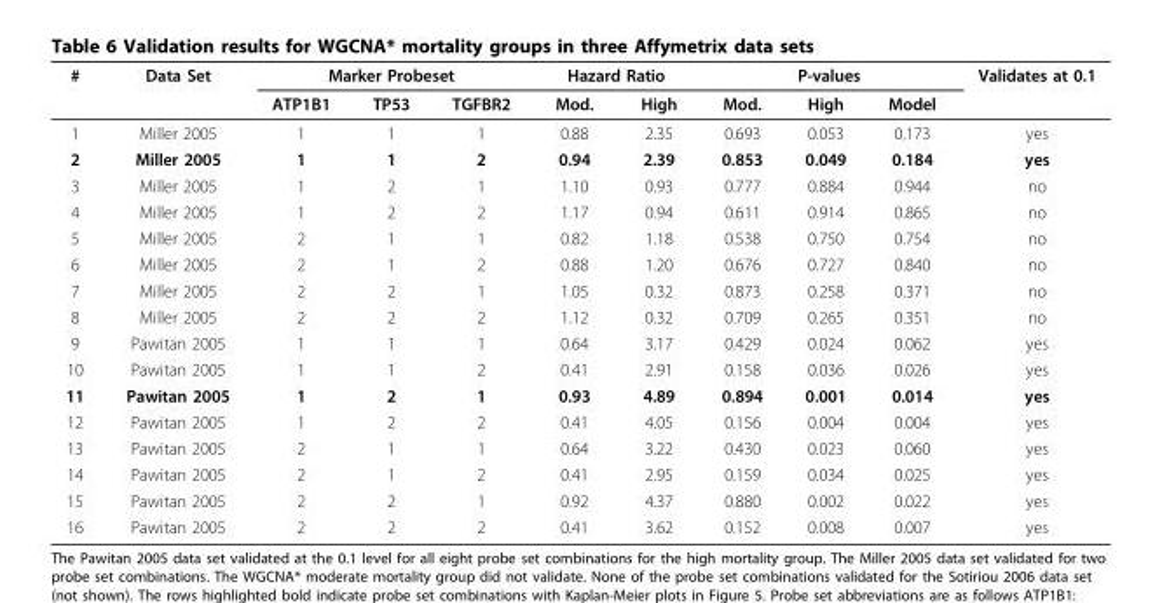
<table><thead><tr><td rowspan="2">#</td><td rowspan="2">Data Set</td><td colspan="3">Marker Probeset</td><td colspan="2">Hazard Ratio</td><td colspan="3">P-values</td><td rowspan="2">Validates at 0.1</td></tr><tr><td>ATP1B1</td><td>TP53</td><td>TGFBR2</td><td>Mod.</td><td>High</td><td>Mod.</td><td>High</td><td>Model</td></tr></thead><tbody><tr><td>1</td><td>Miller 2005</td><td>1</td><td>1</td><td>1</td><td>0.88</td><td>2.35</td><td>0.693</td><td>0.053</td><td>0.173</td><td>yes</td></tr><tr><td>2</td><td>Miller 2005</td><td>1</td><td>1</td><td>2</td><td>0.94</td><td>2.39</td><td>0.853</td><td>0.049</td><td>0.184</td><td>yes</td></tr><tr><td>3</td><td>Miller 2005</td><td>1</td><td>2</td><td>1</td><td>1.10</td><td>0.93</td><td>0.777</td><td>0.884</td><td>0.944</td><td>no</td></tr><tr><td>4</td><td>Miller 2005</td><td>1</td><td>2</td><td>2</td><td>1.17</td><td>0.94</td><td>0.611</td><td>0.914</td><td>0.865</td><td>no</td></tr><tr><td>5</td><td>Miller 2005</td><td>2</td><td>1</td><td>1</td><td>0.82</td><td>1.18</td><td>0.538</td><td>0.750</td><td>0.754</td><td>no</td></tr><tr><td>6</td><td>Miller 2005</td><td>2</td><td>1</td><td>2</td><td>0.88</td><td>1.20</td><td>0.676</td><td>0.727</td><td>0.840</td><td>no</td></tr><tr><td>7</td><td>Miller 2005</td><td>2</td><td>2</td><td>1</td><td>1.05</td><td>0.32</td><td>0.873</td><td>0.258</td><td>0.371</td><td>no</td></tr><tr><td>8</td><td>Miller 2005</td><td>2</td><td>2</td><td>2</td><td>1.12</td><td>0.32</td><td>0.709</td><td>0.265</td><td>0.351</td><td>no</td></tr><tr><td>9</td><td>Pawitan 2005</td><td>1</td><td>1</td><td>1</td><td>0.64</td><td>3.17</td><td>0.429</td><td>0.024</td><td>0.062</td><td>yes</td></tr><tr><td>10</td><td>Pawitan 2005</td><td>1</td><td>1</td><td>2</td><td>0.41</td><td>2.91</td><td>0.158</td><td>0.036</td><td>0.026</td><td>yes</td></tr><tr><td>11</td><td>Pawitan 2005</td><td>1</td><td>2</td><td>1</td><td>0.93</td><td>4.89</td><td>0.894</td><td>0.001</td><td>0.014</td><td>yes</td></tr><tr><td>12</td><td>Pawitan 2005</td><td>1</td><td>2</td><td>2</td><td>0.41</td><td>4.05</td><td>0.156</td><td>0.004</td><td>0.004</td><td>yes</td></tr><tr><td>13</td><td>Pawitan 2005</td><td>2</td><td>1</td><td>1</td><td>0.64</td><td>3.22</td><td>0.430</td><td>0.023</td><td>0.060</td><td>yes</td></tr><tr><td>14</td><td>Pawitan 2005</td><td>2</td><td>1</td><td>2</td><td>0.41</td><td>2.95</td><td>0.159</td><td>0.034</td><td>0.025</td><td>yes</td></tr><tr><td>15</td><td>Pawitan 2005</td><td>2</td><td>2</td><td>1</td><td>0.92</td><td>4.37</td><td>0.880</td><td>0.002</td><td>0.022</td><td>yes</td></tr><tr><td>16</td><td>Pawitan 2005</td><td>2</td><td>2</td><td>2</td><td>0.41</td><td>3.62</td><td>0.152</td><td>0.008</td><td>0.007</td><td>yes</td></tr></tbody></table>